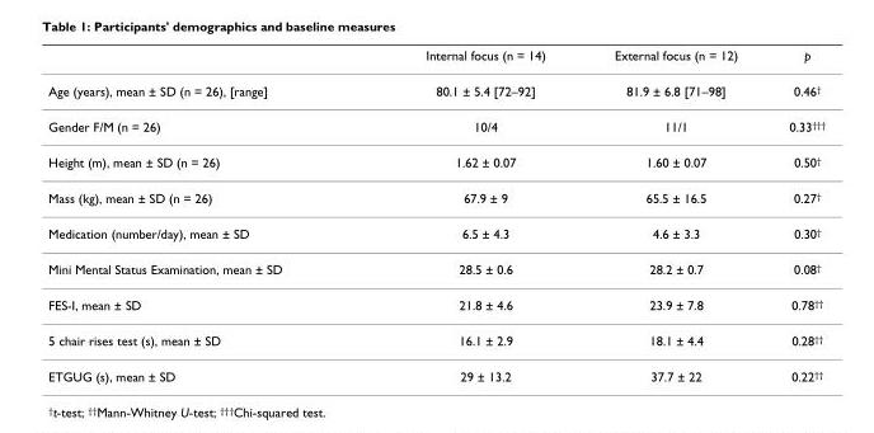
<table><thead><tr><td></td><td>Internal focus (n = 14)</td><td>External focus (n = 12)</td><td>p</td></tr></thead><tbody><tr><td>Age (years), mean ± SD (n = 26), [range]</td><td>80.1 ± 5.4 [72–92]</td><td>81.9 ± 6.8 [71–98]</td><td>0.46<sup>†</sup></td></tr><tr><td>Gender F/M (n = 26)</td><td>10/4</td><td>11/1</td><td>0.33<sup>†††</sup></td></tr><tr><td>Height (m), mean ± SD (n = 26)</td><td>1.62 ± 0.07</td><td>1.60 ± 0.07</td><td>0.50<sup>†</sup></td></tr><tr><td>Mass (kg), mean ± SD (n = 26)</td><td>67.9 ± 9</td><td>65.5 ± 16.5</td><td>0.27<sup>†</sup></td></tr><tr><td>Medication (number/day), mean ± SD</td><td>6.5 ± 4.3</td><td>4.6 ± 3.3</td><td>0.30<sup>†</sup></td></tr><tr><td>Mini Mental Status Examination, mean ± SD</td><td>28.5 ± 0.6</td><td>28.2 ± 0.7</td><td>0.08<sup>†</sup></td></tr><tr><td>FES-I, mean ± SD</td><td>21.8 ± 4.6</td><td>23.9 ± 7.8</td><td>0.78<sup>††</sup></td></tr><tr><td>5 chair rises test (s), mean ± SD</td><td>16.1 ± 2.9</td><td>18.1 ± 4.4</td><td>0.28<sup>††</sup></td></tr><tr><td>ETGUG (s), mean ± SD</td><td>29 ± 13.2</td><td>37.7 ± 22</td><td>0.22<sup>††</sup></td></tr></tbody></table>